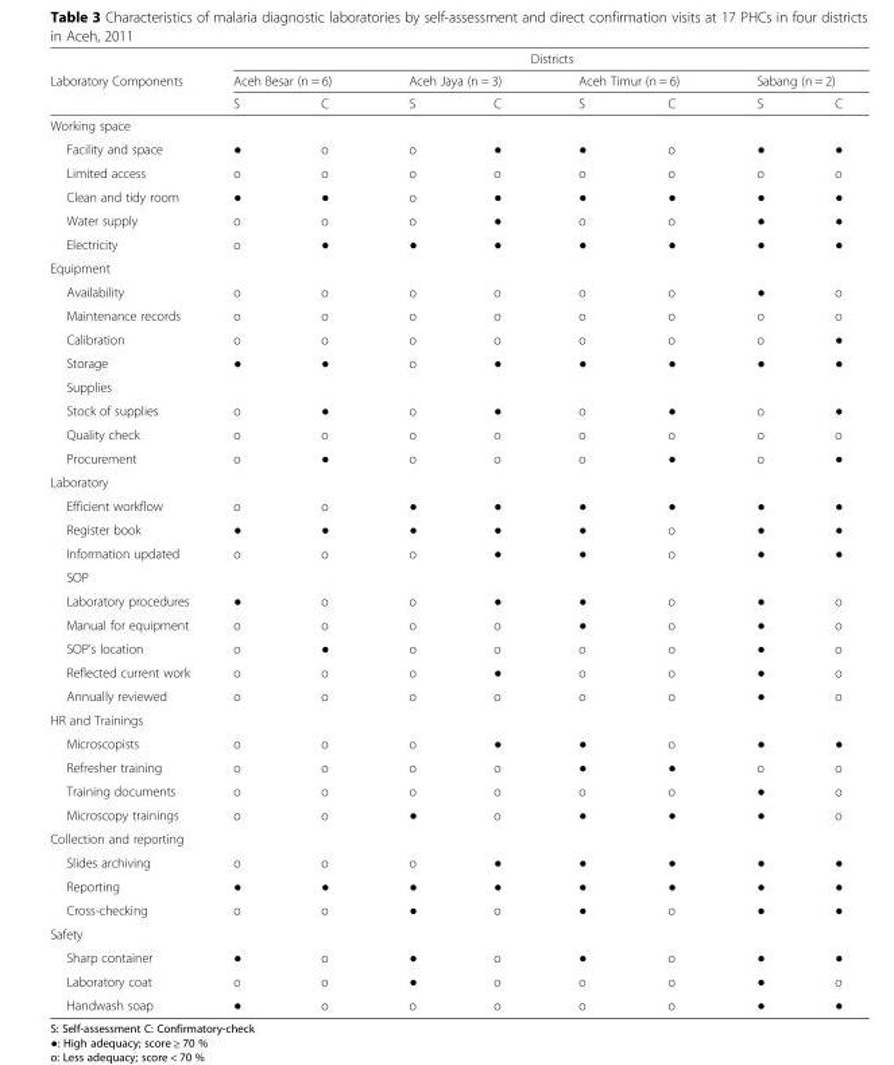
<table><thead><tr><td rowspan="3">Laboratory Components</td><td colspan="8">Districts</td></tr><tr><td colspan="2">Aceh Besar (n = 6)</td><td colspan="2">Aceh Jaya (n = 3)</td><td colspan="2">Aceh Timur (n = 6)</td><td colspan="2">Sabang (n = 2)</td></tr><tr><td>S</td><td>C</td><td>S</td><td>C</td><td>S</td><td>C</td><td>S</td><td>C</td></tr></thead><tbody><tr><td colspan="9">Working space</td></tr><tr><td>Facility and space</td><td>●</td><td>o</td><td>o</td><td>●</td><td>●</td><td>o</td><td>●</td><td>●</td></tr><tr><td>Limited access</td><td>o</td><td>o</td><td>o</td><td>o</td><td>o</td><td>o</td><td>o</td><td>o</td></tr><tr><td>Clean and tidy room</td><td>●</td><td>●</td><td>o</td><td>●</td><td>●</td><td>●</td><td>●</td><td>●</td></tr><tr><td>Water supply</td><td>o</td><td>o</td><td>o</td><td>●</td><td>o</td><td>o</td><td>●</td><td>●</td></tr><tr><td>Electricity</td><td>o</td><td>●</td><td>●</td><td>●</td><td>●</td><td>●</td><td>●</td><td>●</td></tr><tr><td colspan="9">Equipment</td></tr><tr><td>Availability</td><td>o</td><td>o</td><td>o</td><td>o</td><td>o</td><td>o</td><td>●</td><td>o</td></tr><tr><td>Maintenance records</td><td>o</td><td>o</td><td>o</td><td>o</td><td>o</td><td>o</td><td>o</td><td>o</td></tr><tr><td>Calibration</td><td>o</td><td>o</td><td>o</td><td>o</td><td>o</td><td>o</td><td>o</td><td>●</td></tr><tr><td>Storage</td><td>●</td><td>●</td><td>o</td><td>●</td><td>●</td><td>●</td><td>●</td><td>●</td></tr><tr><td colspan="9">Supplies</td></tr><tr><td>Stock of supplies</td><td>o</td><td>●</td><td>o</td><td>●</td><td>o</td><td>●</td><td>o</td><td>●</td></tr><tr><td>Quality check</td><td>o</td><td>o</td><td>o</td><td>o</td><td>o</td><td>o</td><td>o</td><td>o</td></tr><tr><td>Procurement</td><td>o</td><td>●</td><td>o</td><td>o</td><td>o</td><td>●</td><td>o</td><td>●</td></tr><tr><td colspan="9">Laboratory</td></tr><tr><td>Efficient workflow</td><td>o</td><td>o</td><td>●</td><td>●</td><td>●</td><td>●</td><td>●</td><td>●</td></tr><tr><td>Register book</td><td>●</td><td>●</td><td>●</td><td>●</td><td>●</td><td>o</td><td>●</td><td>●</td></tr><tr><td>Information updated</td><td>o</td><td>o</td><td>o</td><td>●</td><td>●</td><td>o</td><td>●</td><td>●</td></tr><tr><td colspan="9">SOP</td></tr><tr><td>Laboratory procedures</td><td>●</td><td>o</td><td>o</td><td>●</td><td>●</td><td>o</td><td>●</td><td>o</td></tr><tr><td>Manual for equipment</td><td>o</td><td>o</td><td>o</td><td>o</td><td>●</td><td>o</td><td>●</td><td>o</td></tr><tr><td>SOP’s location</td><td>o</td><td>●</td><td>o</td><td>o</td><td>o</td><td>o</td><td>●</td><td>o</td></tr><tr><td>Reflected current work</td><td>o</td><td>o</td><td>o</td><td>●</td><td>o</td><td>o</td><td>●</td><td>o</td></tr><tr><td>Annually reviewed</td><td>o</td><td>o</td><td>o</td><td>o</td><td>o</td><td>o</td><td>●</td><td>o</td></tr><tr><td colspan="9">HR and Trainings</td></tr><tr><td>Microscopists</td><td>o</td><td>o</td><td>o</td><td>●</td><td>●</td><td>o</td><td>●</td><td>●</td></tr><tr><td>Refresher training</td><td>o</td><td>o</td><td>o</td><td>o</td><td>●</td><td>●</td><td>o</td><td>o</td></tr><tr><td>Training documents</td><td>o</td><td>o</td><td>o</td><td>o</td><td>o</td><td>o</td><td>●</td><td>o</td></tr><tr><td>Microscopy trainings</td><td>o</td><td>o</td><td>●</td><td>o</td><td>●</td><td>●</td><td>●</td><td>o</td></tr><tr><td colspan="9">Collection and reporting</td></tr><tr><td>Slides archiving</td><td>o</td><td>o</td><td>o</td><td>●</td><td>●</td><td>●</td><td>●</td><td>●</td></tr><tr><td>Reporting</td><td>●</td><td>●</td><td>●</td><td>●</td><td>●</td><td>●</td><td>●</td><td>●</td></tr><tr><td>Cross-checking</td><td>o</td><td>o</td><td>●</td><td>o</td><td>●</td><td>o</td><td>●</td><td>●</td></tr><tr><td colspan="9">Safety</td></tr><tr><td>Sharp container</td><td>●</td><td>o</td><td>●</td><td>o</td><td>●</td><td>o</td><td>●</td><td>●</td></tr><tr><td>Laboratory coat</td><td>o</td><td>o</td><td>●</td><td>o</td><td>o</td><td>o</td><td>●</td><td>o</td></tr><tr><td>Handwash soap</td><td>●</td><td>o</td><td>o</td><td>o</td><td>o</td><td>o</td><td>●</td><td>●</td></tr></tbody></table>